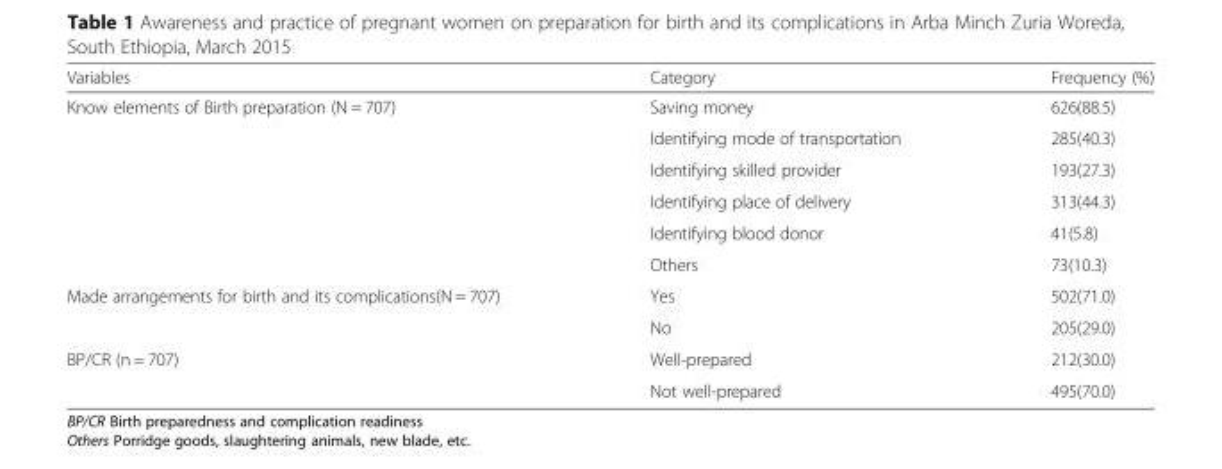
<table><thead><tr><td>Variables</td><td>Category</td><td>Frequency (%)</td></tr></thead><tbody><tr><td rowspan="6">Know elements of Birth preparation (N = 707)</td><td>Saving money</td><td>626(88.5)</td></tr><tr><td>Identifying mode of transportation</td><td>285(40.3)</td></tr><tr><td>Identifying skilled provider</td><td>193(27.3)</td></tr><tr><td>Identifying place of delivery</td><td>313(44.3)</td></tr><tr><td>Identifying blood donor</td><td>41(5.8)</td></tr><tr><td>Others</td><td>73(10.3)</td></tr><tr><td rowspan="2">Made arrangements for birth and its complications(N = 707)</td><td>Yes</td><td>502(71.0)</td></tr><tr><td>No</td><td>205(29.0)</td></tr><tr><td rowspan="2">BP/CR (n = 707)</td><td>Well-prepared</td><td>212(30.0)</td></tr><tr><td>Not well-prepared</td><td>495(70.0)</td></tr></tbody></table>